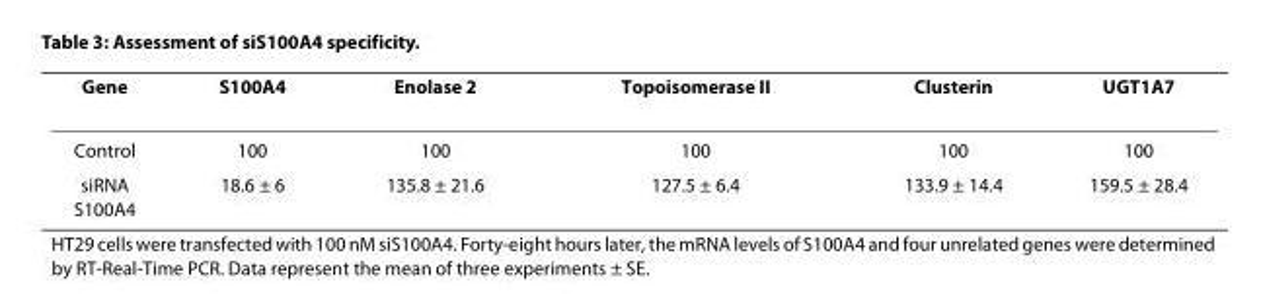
<table><thead><tr><td>Gene</td><td>S100A4</td><td>Enolase 2</td><td>Topoisomerase II</td><td>Clusterin</td><td>UGT1A7</td></tr></thead><tbody><tr><td>Control</td><td>100</td><td>100</td><td>100</td><td>100</td><td>100</td></tr><tr><td>siRNA S100A4</td><td>18.6 ± 6</td><td>135.8 ± 21.6</td><td>127.5 ± 6.4</td><td>133.9 ± 14.4</td><td>159.5 ± 28.4</td></tr></tbody></table>